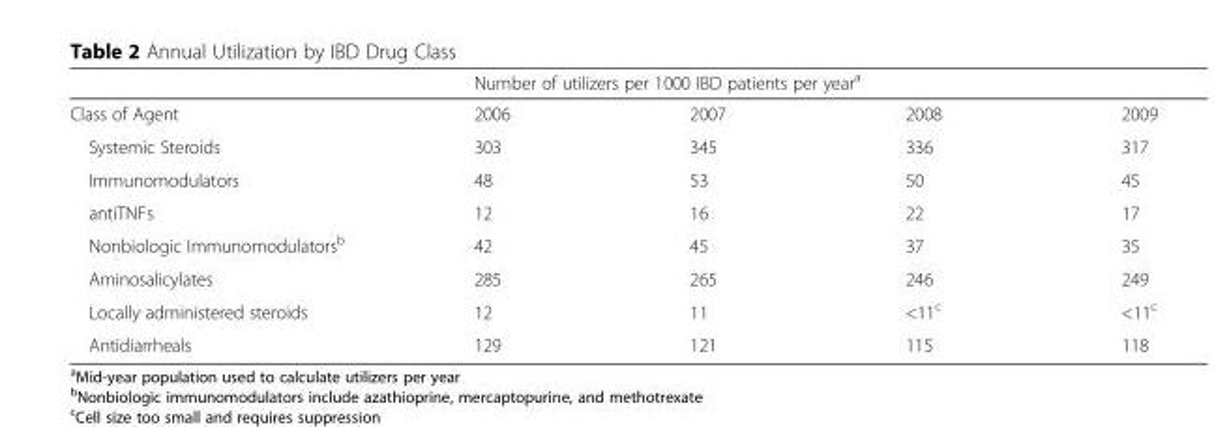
<table><thead><tr><td rowspan="2">Class of Agent</td><td colspan="4">Number of utilizers per 1000 IBD patients per year<sup>a</sup></td></tr><tr><td>2006</td><td>2007</td><td>2008</td><td>2009</td></tr></thead><tbody><tr><td>Systemic Steroids</td><td>303</td><td>345</td><td>336</td><td>317</td></tr><tr><td>Immunomodulators</td><td>48</td><td>53</td><td>50</td><td>45</td></tr><tr><td>antiTNFs</td><td>12</td><td>16</td><td>22</td><td>17</td></tr><tr><td>Nonbiologic Immunomodulators<sup>b</sup></td><td>42</td><td>45</td><td>37</td><td>35</td></tr><tr><td>Aminosalicylates</td><td>285</td><td>265</td><td>246</td><td>249</td></tr><tr><td>Locally administered steroids</td><td>12</td><td>11</td><td>&lt;11<sup>c</sup></td><td>&lt;11<sup>c</sup></td></tr><tr><td>Antidiarrheals</td><td>129</td><td>121</td><td>115</td><td>118</td></tr></tbody></table>